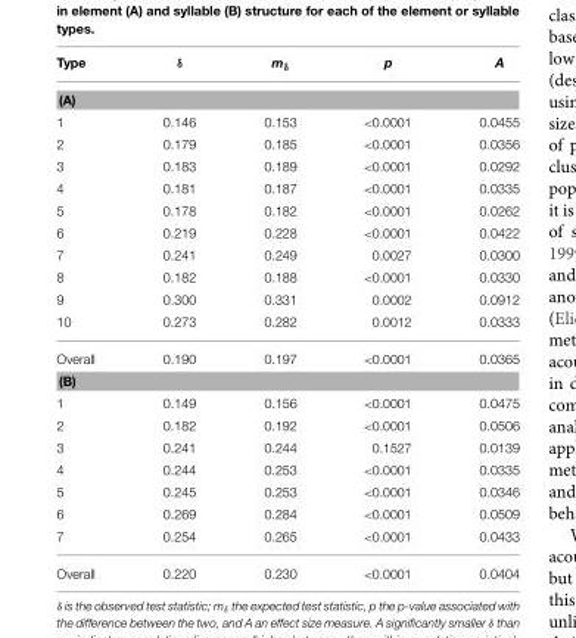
<table><thead><tr><td>Type</td><td>δ</td><td>m<sub>δ</sub></td><td>p</td><td>A</td></tr></thead><tbody><tr><td colspan="5">(A)</td></tr><tr><td>1</td><td>0.146</td><td>0.153</td><td>&lt;0.0001</td><td>0.0455</td></tr><tr><td>2</td><td>0.179</td><td>0.185</td><td>&lt;0.0001</td><td>0.0356</td></tr><tr><td>3</td><td>0.183</td><td>0.189</td><td>&lt;0.0001</td><td>0.0292</td></tr><tr><td>4</td><td>0.181</td><td>0.187</td><td>&lt;0.0001</td><td>0.0335</td></tr><tr><td>5</td><td>0.178</td><td>0.182</td><td>&lt;0.0001</td><td>0.0262</td></tr><tr><td>6</td><td>0.219</td><td>0.228</td><td>&lt;0.0001</td><td>0.0422</td></tr><tr><td>7</td><td>0.241</td><td>0.249</td><td>0.0027</td><td>0.0300</td></tr><tr><td>8</td><td>0.182</td><td>0.188</td><td>&lt;0.0001</td><td>0.0330</td></tr><tr><td>9</td><td>0.300</td><td>0.331</td><td>0.0002</td><td>0.0912</td></tr><tr><td>10</td><td>0.273</td><td>0.282</td><td>0.0012</td><td>0.0333</td></tr><tr><td>Overall</td><td>0.190</td><td>0.197</td><td>&lt;0.0001</td><td>0.0365</td></tr><tr><td colspan="5">(B)</td></tr><tr><td>1</td><td>0.149</td><td>0.156</td><td>&lt;0.0001</td><td>0.0475</td></tr><tr><td>2</td><td>0.182</td><td>0.192</td><td>&lt;0.0001</td><td>0.0506</td></tr><tr><td>3</td><td>0.241</td><td>0.244</td><td>0.1527</td><td>0.0139</td></tr><tr><td>4</td><td>0.244</td><td>0.253</td><td>&lt;0.0001</td><td>0.0335</td></tr><tr><td>5</td><td>0.245</td><td>0.253</td><td>&lt;0.0001</td><td>0.0346</td></tr><tr><td>6</td><td>0.269</td><td>0.284</td><td>&lt;0.0001</td><td>0.0509</td></tr><tr><td>7</td><td>0.254</td><td>0.265</td><td>&lt;0.0001</td><td>0.0433</td></tr><tr><td>Overall</td><td>0.220</td><td>0.230</td><td>&lt;0.0001</td><td>0.0404</td></tr></tbody></table>